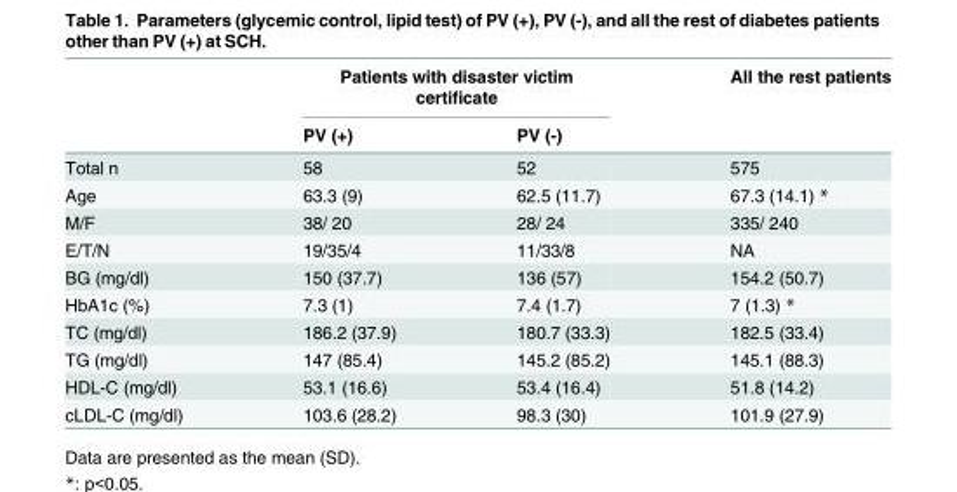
<table><thead><tr><td rowspan="2"></td><td colspan="2">Patients with disaster victim certificate</td><td rowspan="2">All the rest patients</td></tr><tr><td>PV (+)</td><td>PV (-)</td></tr></thead><tbody><tr><td>Total n</td><td>58</td><td>52</td><td>575</td></tr><tr><td>Age</td><td>63.3 (9)</td><td>62.5 (11.7)</td><td>67.3 (14.1) *</td></tr><tr><td>M/F</td><td>38/ 20</td><td>28/ 24</td><td>335/ 240</td></tr><tr><td>E/T/N</td><td>19/35/4</td><td>11/33/8</td><td>NA</td></tr><tr><td>BG (mg/dl)</td><td>150 (37.7)</td><td>136 (57)</td><td>154.2 (50.7)</td></tr><tr><td>HbA1c (%)</td><td>7.3 (1)</td><td>7.4 (1.7)</td><td>7 (1.3) *</td></tr><tr><td>TC (mg/dl)</td><td>186.2 (37.9)</td><td>180.7 (33.3)</td><td>182.5 (33.4)</td></tr><tr><td>TG (mg/dl)</td><td>147 (85.4)</td><td>145.2 (85.2)</td><td>145.1 (88.3)</td></tr><tr><td>HDL-C (mg/dl)</td><td>53.1 (16.6)</td><td>53.4 (16.4)</td><td>51.8 (14.2)</td></tr><tr><td>cLDL-C (mg/dl)</td><td>103.6 (28.2)</td><td>98.3 (30)</td><td>101.9 (27.9)</td></tr></tbody></table>